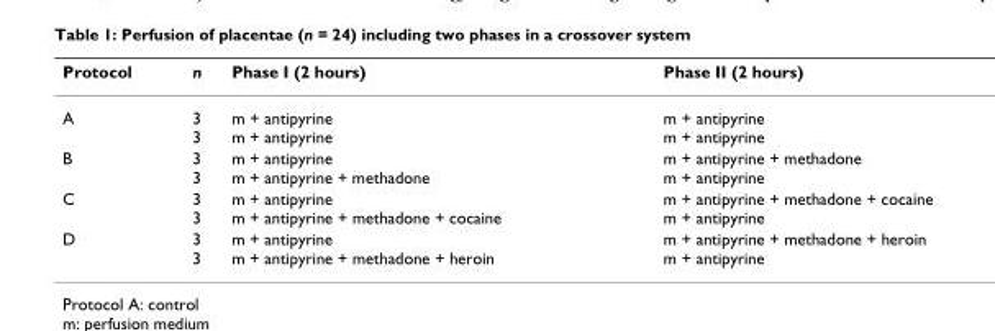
<table><thead><tr><td>Protocol</td><td>n</td><td>Phase I (2 hours)</td><td>Phase II (2 hours)</td></tr></thead><tbody><tr><td>A</td><td>3 3</td><td>m + antipyrine m + antipyrine</td><td>m + antipyrine m + antipyrine</td></tr><tr><td>B</td><td>3 3</td><td>m + antipyrine m + antipyrine + methadone</td><td>m + antipyrine + methadone m + antipyrine</td></tr><tr><td>C</td><td>3 3</td><td>m + antipyrine m + antipyrine + methadone + cocaine</td><td>m + antipyrine + methadone + cocaine m + antipyrine</td></tr><tr><td>D</td><td>3 3</td><td>m + antipyrine m + antipyrine + methadone + heroin</td><td>m + antipyrine + methadone + heroin m + antipyrine</td></tr></tbody></table>